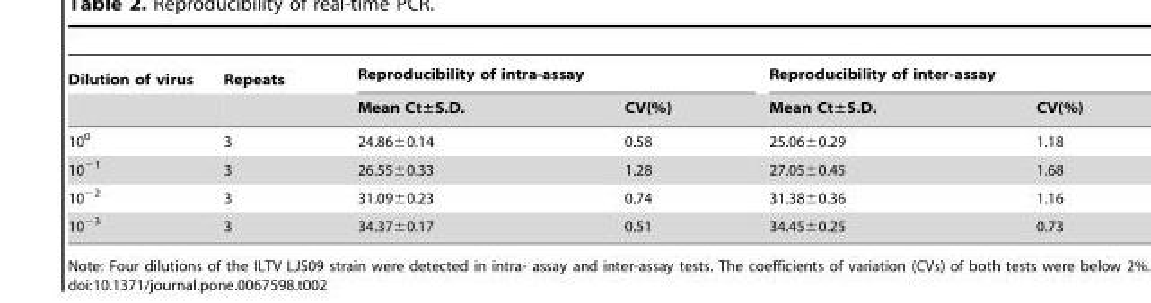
<table><thead><tr><td rowspan="2">Dilution of virus</td><td rowspan="2">Repeats</td><td colspan="2">Reproducibility of intra-assay</td><td colspan="2">Reproducibility of inter-assay</td></tr><tr><td>Mean Ct±S.D.</td><td>CV(%)</td><td>Mean Ct±S.D.</td><td>CV(%)</td></tr></thead><tbody><tr><td>10<sup>0</sup></td><td>3</td><td>24.86±0.14</td><td>0.58</td><td>25.06±0.29</td><td>1.18</td></tr><tr><td>10<sup>−1</sup></td><td>3</td><td>26.55±0.33</td><td>1.28</td><td>27.05±0.45</td><td>1.68</td></tr><tr><td>10<sup>−2</sup></td><td>3</td><td>31.09±0.23</td><td>0.74</td><td>31.38±0.36</td><td>1.16</td></tr><tr><td>10<sup>−3</sup></td><td>3</td><td>34.37±0.17</td><td>0.51</td><td>34.45±0.25</td><td>0.73</td></tr></tbody></table>